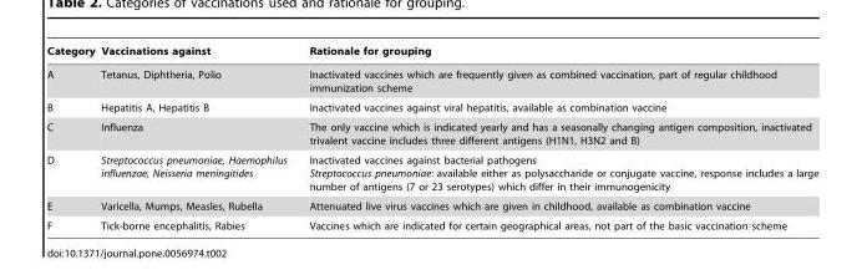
<table><thead><tr><td>Category</td><td>Vaccinations against</td><td>Rationale for grouping</td></tr></thead><tbody><tr><td>A</td><td>Tetanus, Diphtheria, Polio</td><td>Inactivated vaccines which are frequently given as combined vaccination, part of regular childhood immunization scheme</td></tr><tr><td>B</td><td>Hepatitis A, Hepatitis B</td><td>Inactivated vaccines against viral hepatitis, available as combination vaccine</td></tr><tr><td>C</td><td>Influenza</td><td>The only vaccine which is indicated yearly and has a seasonally changing antigen composition, inactivated trivalent vaccine includes three different antigens (H1N1, H3N2 and B)</td></tr><tr><td>D</td><td>Streptococcus pneumoniae, Haemophilus influenzae, Neisseria meningitides</td><td>Inactivated vaccines against bacterial pathogens Streptococcus pneumoniae: available either as polysaccharide or conjugate vaccine, response includes a large number of antigens (7 or 23 serotypes) which differ in their immunogenicity</td></tr><tr><td>E</td><td>Varicella, Mumps, Measles, Rubella</td><td>Attenuated live virus vaccines which are given in childhood, available as combination vaccine</td></tr><tr><td>F</td><td>Tick-borne encephalitis, Rabies</td><td>Vaccines which are indicated for certain geographical areas, not part of the basic vaccination scheme</td></tr></tbody></table>